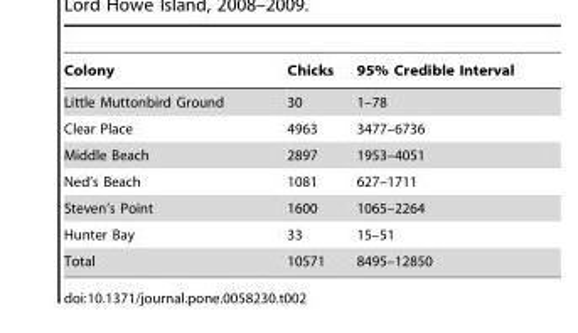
<table><thead><tr><td>Colony</td><td>Chicks</td><td>95% Credible Interval</td></tr></thead><tbody><tr><td>Little Muttonbird Ground</td><td>30</td><td>1–78</td></tr><tr><td>Clear Place</td><td>4963</td><td>3477–6736</td></tr><tr><td>Middle Beach</td><td>2897</td><td>1953–4051</td></tr><tr><td>Ned’s Beach</td><td>1081</td><td>627–1711</td></tr><tr><td>Steven’s Point</td><td>1600</td><td>1065–2264</td></tr><tr><td>Hunter Bay</td><td>33</td><td>15–51</td></tr><tr><td>Total</td><td>10571</td><td>8495–12850</td></tr></tbody></table>